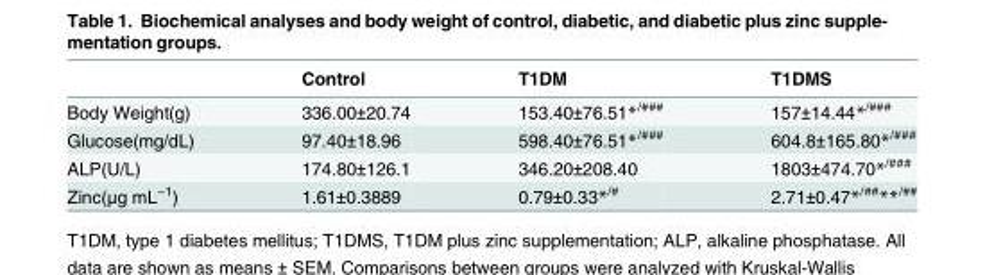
<table><thead><tr><td></td><td>Control</td><td>T1DM</td><td>T1DMS</td></tr></thead><tbody><tr><td>Body Weight(g)</td><td>336.00±20.74</td><td>153.40±76.51*<sup>/###</sup></td><td>157±14.44*<sup>/###</sup></td></tr><tr><td>Glucose(mg/dL)</td><td>97.40±18.96</td><td>598.40±76.51*<sup>/###</sup></td><td>604.8±165.80*<sup>/###</sup></td></tr><tr><td>ALP(U/L)</td><td>174.80±126.1</td><td>346.20±208.40</td><td>1803±474.70*<sup>/###</sup></td></tr><tr><td>Zinc(μg mL<sup>−1</sup>)</td><td>1.61±0.3889</td><td>0.79±0.33*<sup>/#</sup></td><td>2.71±0.47*<sup>/##</sup>**<sup>/##</sup></td></tr></tbody></table>